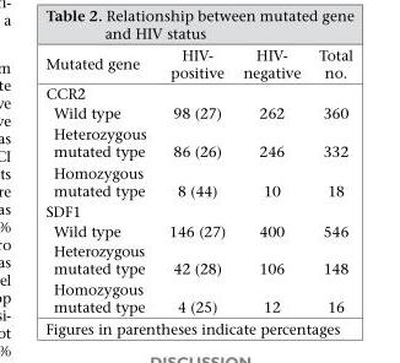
<table><thead><tr><td>Mutated gene</td><td>HIV- positive</td><td>HIV- negative</td><td>Total no.</td></tr></thead><tbody><tr><td colspan="4">CCR2</td></tr><tr><td>Wild type</td><td>98 (27)</td><td>262</td><td>360</td></tr><tr><td>Heterozygous mutated type</td><td>86 (26)</td><td>246</td><td>332</td></tr><tr><td>Homozygous mutated type</td><td>8 (44)</td><td>10</td><td>18</td></tr><tr><td colspan="4">SDF1</td></tr><tr><td>Wild type</td><td>146 (27)</td><td>400</td><td>546</td></tr><tr><td>Heterozygous mutated type</td><td>42 (28)</td><td>106</td><td>148</td></tr><tr><td>Homozygous mutated type</td><td>4 (25)</td><td>12</td><td>16</td></tr></tbody></table>